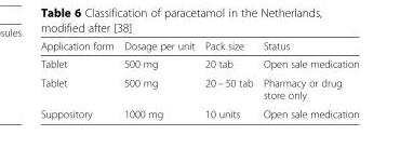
<table><thead><tr><td>Application form</td><td>Dosage per unit</td><td>Pack size</td><td>Status</td></tr></thead><tbody><tr><td>Tablet</td><td>500 mg</td><td>20 tab</td><td>Open sale medication</td></tr><tr><td>Tablet</td><td>500 mg</td><td>20 – 50 tab</td><td>Pharmacy or drug store only</td></tr><tr><td>Suppository</td><td>1000 mg</td><td>10 units</td><td>Open sale medication</td></tr></tbody></table>